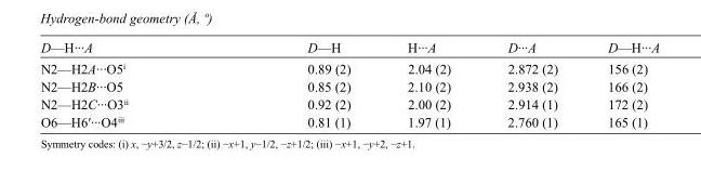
<table><tbody><tr><td>D—H···A</td><td>D—H</td><td>H···A</td><td>D···A</td><td>D—H···A</td></tr><tr><td>N2—H2A···O5<sup>i</sup></td><td>0.89 (2)</td><td>2.04 (2)</td><td>2.872 (2)</td><td>156 (2)</td></tr><tr><td>N2—H2B···O5</td><td>0.85 (2)</td><td>2.10 (2)</td><td>2.938 (2)</td><td>166 (2)</td></tr><tr><td>N2—H2C···O3<sup>ii</sup></td><td>0.92 (2)</td><td>2.00 (2)</td><td>2.914 (1)</td><td>172 (2)</td></tr><tr><td>O6—H6′···O4<sup>iii</sup></td><td>0.81 (1)</td><td>1.97 (1)</td><td>2.760 (1)</td><td>165 (1)</td></tr></tbody></table>